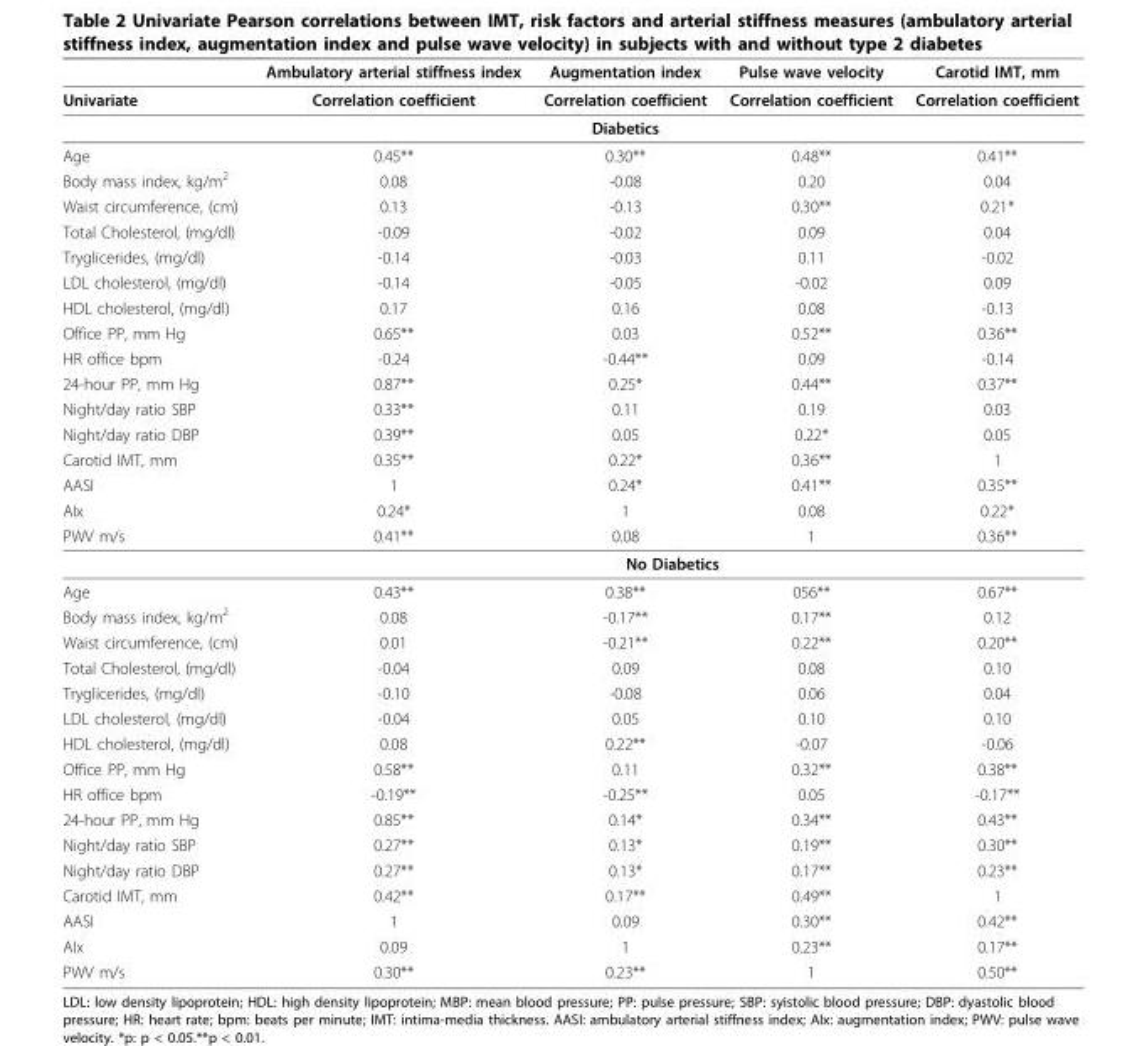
<table><thead><tr><td></td><td>Ambulatory arterial stiffness index</td><td>Augmentation index</td><td>Pulse wave velocity</td><td>Carotid IMT, mm</td></tr></thead><tbody><tr><td rowspan="2">Univariate</td><td>Correlation coefficient</td><td>Correlation coefficient</td><td>Correlation coefficient</td><td>Correlation coefficient</td></tr><tr><td></td><td>Diabetics</td><td></td><td></td></tr><tr><td>Age</td><td>0.45**</td><td>0.30**</td><td>0.48**</td><td>0.41**</td></tr><tr><td>Body mass index, kg/m<sup>2</sup></td><td>0.08</td><td>-0.08</td><td>0.20</td><td>0.04</td></tr><tr><td>Waist circumference, (cm)</td><td>0.13</td><td>-0.13</td><td>0.30**</td><td>0.21*</td></tr><tr><td>Total Cholesterol, (mg/dl)</td><td>-0.09</td><td>-0.02</td><td>0.09</td><td>0.04</td></tr><tr><td>Tryglicerides, (mg/dl)</td><td>-0.14</td><td>-0.03</td><td>0.11</td><td>-0.02</td></tr><tr><td>LDL cholesterol, (mg/dl)</td><td>-0.14</td><td>-0.05</td><td>-0.02</td><td>0.09</td></tr><tr><td>HDL cholesterol, (mg/dl)</td><td>0.17</td><td>0.16</td><td>0.08</td><td>-0.13</td></tr><tr><td>Office PP, mm Hg</td><td>0.65**</td><td>0.03</td><td>0.52**</td><td>0.36**</td></tr><tr><td>HR office bpm</td><td>-0.24</td><td>-0.44**</td><td>0.09</td><td>-0.14</td></tr><tr><td>24-hour PP, mm Hg</td><td>0.87**</td><td>0.25*</td><td>0.44**</td><td>0.37**</td></tr><tr><td>Night/day ratio SBP</td><td>0.33**</td><td>0.11</td><td>0.19</td><td>0.03</td></tr><tr><td>Night/day ratio DBP</td><td>0.39**</td><td>0.05</td><td>0.22*</td><td>0.05</td></tr><tr><td>Carotid IMT, mm</td><td>0.35**</td><td>0.22*</td><td>0.36**</td><td>1</td></tr><tr><td>AASI</td><td>1</td><td>0.24*</td><td>0.41**</td><td>0.35**</td></tr><tr><td>AIx</td><td>0.24*</td><td>1</td><td>0.08</td><td>0.22*</td></tr><tr><td rowspan="2">PWV m/s</td><td>0.41**</td><td>0.08</td><td>1</td><td>0.36**</td></tr><tr><td colspan="4">No Diabetics</td></tr><tr><td>Age</td><td>0.43**</td><td>0.38**</td><td>056**</td><td>0.67**</td></tr><tr><td>Body mass index, kg/m<sup>2</sup></td><td>0.08</td><td>-0.17**</td><td>0.17**</td><td>0.12</td></tr><tr><td>Waist circumference, (cm)</td><td>0.01</td><td>-0.21**</td><td>0.22**</td><td>0.20**</td></tr><tr><td>Total Cholesterol, (mg/dl)</td><td>-0.04</td><td>0.09</td><td>0.08</td><td>0.10</td></tr><tr><td>Tryglicerides, (mg/dl)</td><td>-0.10</td><td>-0.08</td><td>0.06</td><td>0.04</td></tr><tr><td>LDL cholesterol, (mg/dl)</td><td>-0.04</td><td>0.05</td><td>0.10</td><td>0.10</td></tr><tr><td>HDL cholesterol, (mg/dl)</td><td>0.08</td><td>0.22**</td><td>-0.07</td><td>-0.06</td></tr><tr><td>Office PP, mm Hg</td><td>0.58**</td><td>0.11</td><td>0.32**</td><td>0.38**</td></tr><tr><td>HR office bpm</td><td>-0.19**</td><td>-0.25**</td><td>0.05</td><td>-0.17**</td></tr><tr><td>24-hour PP, mm Hg</td><td>0.85**</td><td>0.14*</td><td>0.34**</td><td>0.43**</td></tr><tr><td>Night/day ratio SBP</td><td>0.27**</td><td>0.13*</td><td>0.19**</td><td>0.30**</td></tr><tr><td>Night/day ratio DBP</td><td>0.27**</td><td>0.13*</td><td>0.17**</td><td>0.23**</td></tr><tr><td>Carotid IMT, mm</td><td>0.42**</td><td>0.17**</td><td>0.49**</td><td>1</td></tr><tr><td>AASI</td><td>1</td><td>0.09</td><td>0.30**</td><td>0.42**</td></tr><tr><td>AIx</td><td>0.09</td><td>1</td><td>0.23**</td><td>0.17**</td></tr><tr><td>PWV m/s</td><td>0.30**</td><td>0.23**</td><td>1</td><td>0.50**</td></tr></tbody></table>